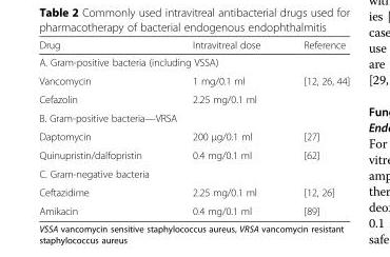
<table><thead><tr><td>Drug</td><td>Intravitreal dose</td><td>Reference</td></tr></thead><tbody><tr><td colspan="3">A. Gram-positive bacteria (including VSSA)</td></tr><tr><td>Vancomycin</td><td>1 mg/0.1 ml</td><td>[12, 26, 44]</td></tr><tr><td>Cefazolin</td><td>2.25 mg/0.1 ml</td><td></td></tr><tr><td colspan="3">B. Gram-positive bacteria—VRSA</td></tr><tr><td>Daptomycin</td><td>200 μg/0.1 ml</td><td>[27]</td></tr><tr><td>Quinupristin/dalfopristin</td><td>0.4 mg/0.1 ml</td><td>[62]</td></tr><tr><td colspan="3">C. Gram-negative bacteria</td></tr><tr><td>Ceftazidime</td><td>2.25 mg/0.1 ml</td><td>[12, 26]</td></tr><tr><td>Amikacin</td><td>0.4 mg/0.1 ml</td><td>[89]</td></tr></tbody></table>